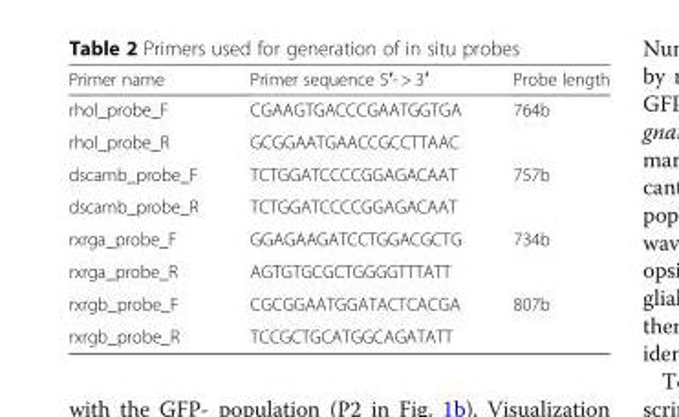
<table><thead><tr><td>Primer name</td><td>Primer sequence 5′- &gt; 3′</td><td>Probe length</td></tr></thead><tbody><tr><td>rhol_probe_F</td><td>CGAAGTGACCCGAATGGTGA</td><td rowspan="2">764b</td></tr><tr><td>rhol_probe_R</td><td>GCGGAATGAACCGCCTTAAC</td></tr><tr><td>dscamb_probe_F</td><td>TCTGGATCCCCGGAGACAAT</td><td rowspan="2">757b</td></tr><tr><td>dscamb_probe_R</td><td>TCTGGATCCCCGGAGACAAT</td></tr><tr><td>rxrga_probe_F</td><td>GGAGAAGATCCTGGACGCTG</td><td rowspan="2">734b</td></tr><tr><td>rxrga_probe_R</td><td>AGTGTGCGCTGGGGTTTATT</td></tr><tr><td>rxrgb_probe_F</td><td>CGCGGAATGGATACTCACGA</td><td rowspan="2">807b</td></tr><tr><td>rxrgb_probe_R</td><td>TCCGCTGCATGGCAGATATT</td></tr></tbody></table>